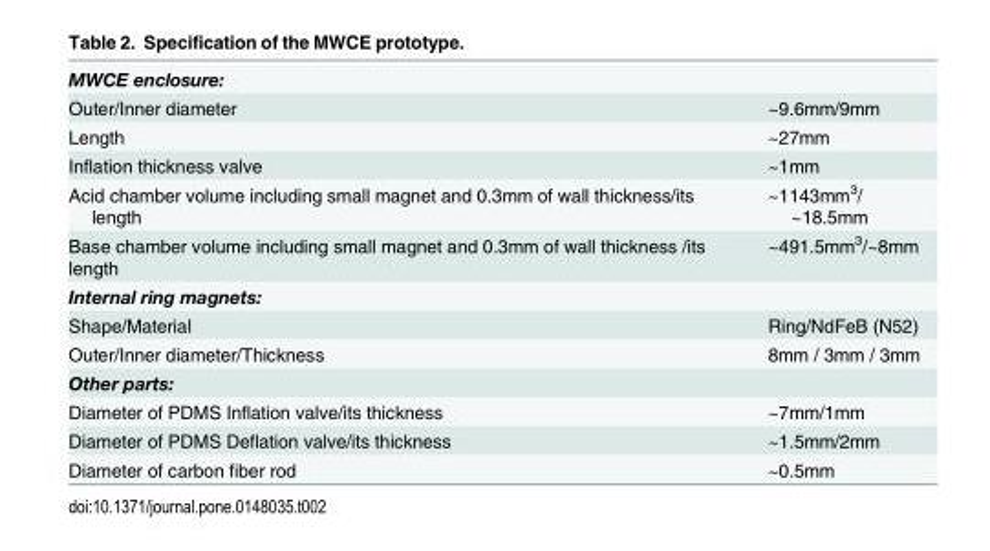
<table><tbody><tr><td colspan="2">MWCE enclosure:</td></tr><tr><td>Outer/Inner diameter</td><td>~9.6mm/9mm</td></tr><tr><td>Length</td><td>~27mm</td></tr><tr><td>Inflation thickness valve</td><td>~1mm</td></tr><tr><td>Acid chamber volume including small magnet and 0.3mm of wall thickness/its length</td><td>~1143mm<sup>3</sup>/ ~18.5mm</td></tr><tr><td>Base chamber volume including small magnet and 0.3mm of wall thickness /its length</td><td>~491.5mm<sup>3</sup>/~8mm</td></tr><tr><td colspan="2">Internal ring magnets:</td></tr><tr><td>Shape/Material</td><td>Ring/NdFeB (N52)</td></tr><tr><td>Outer/Inner diameter/Thickness</td><td>8mm / 3mm / 3mm</td></tr><tr><td colspan="2">Other parts:</td></tr><tr><td>Diameter of PDMS Inflation valve/its thickness</td><td>~7mm/1mm</td></tr><tr><td>Diameter of PDMS Deflation valve/its thickness</td><td>~1.5mm/2mm</td></tr><tr><td>Diameter of carbon fiber rod</td><td>~0.5mm</td></tr></tbody></table>